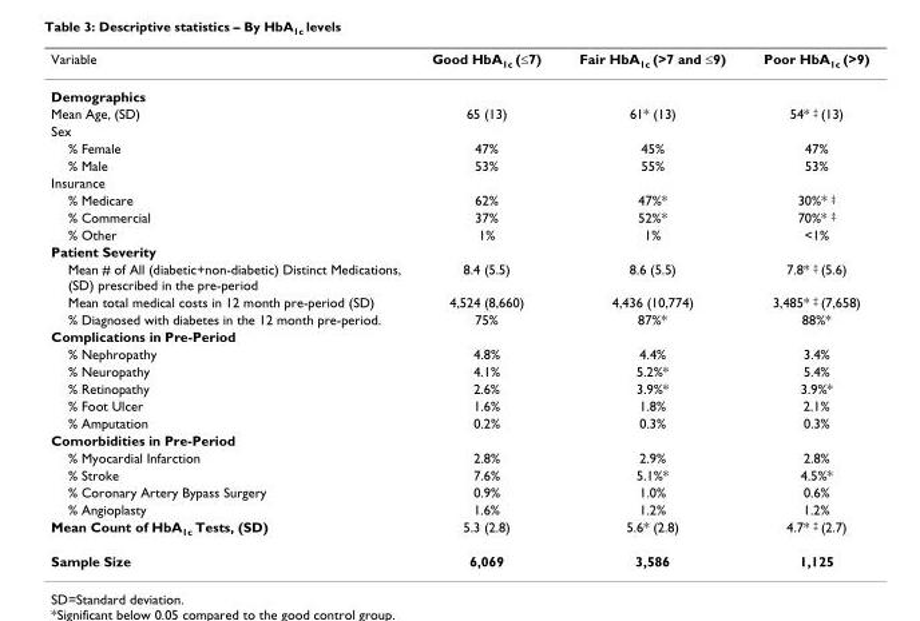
<table><thead><tr><td>Variable</td><td>Good HbA<sub>1c</sub> (≤7)</td><td>Fair HbA<sub>1c</sub> (&gt;7 and ≤9)</td><td>Poor HbA<sub>1c</sub> (&gt;9)</td></tr></thead><tbody><tr><td colspan="4">Demographics</td></tr><tr><td>Mean Age, (SD)</td><td>65 (13)</td><td>61* (13)</td><td>54* <sup>‡</sup> (13)</td></tr><tr><td colspan="4">Sex</td></tr><tr><td>% Female</td><td>47%</td><td>45%</td><td>47%</td></tr><tr><td>% Male</td><td>53%</td><td>55%</td><td>53%</td></tr><tr><td colspan="4">Insurance</td></tr><tr><td>% Medicare</td><td>62%</td><td>47%*</td><td>30%* <sup>‡</sup></td></tr><tr><td>% Commercial</td><td>37%</td><td>52%*</td><td>70%* <sup>‡</sup></td></tr><tr><td>% Other</td><td>1%</td><td>1%</td><td>&lt;1%</td></tr><tr><td colspan="4">Patient Severity</td></tr><tr><td>Mean # of All (diabetic+non-diabetic) Distinct Medications, (SD) prescribed in the pre-period</td><td>8.4 (5.5)</td><td>8.6 (5.5)</td><td>7.8* <sup>‡</sup> (5.6)</td></tr><tr><td>Mean total medical costs in 12 month pre-period (SD)</td><td>4,524 (8,660)</td><td>4,436 (10,774)</td><td>3,485* <sup>‡</sup> (7,658)</td></tr><tr><td>% Diagnosed with diabetes in the 12 month pre-period.</td><td>75%</td><td>87%*</td><td>88%*</td></tr><tr><td colspan="4">Complications in Pre-Period</td></tr><tr><td>% Nephropathy</td><td>4.8%</td><td>4.4%</td><td>3.4%</td></tr><tr><td>% Neuropathy</td><td>4.1%</td><td>5.2%*</td><td>5.4%</td></tr><tr><td>% Retinopathy</td><td>2.6%</td><td>3.9%*</td><td>3.9%*</td></tr><tr><td>% Foot Ulcer</td><td>1.6%</td><td>1.8%</td><td>2.1%</td></tr><tr><td>% Amputation</td><td>0.2%</td><td>0.3%</td><td>0.3%</td></tr><tr><td colspan="4">Comorbidities in Pre-Period</td></tr><tr><td>% Myocardial Infarction</td><td>2.8%</td><td>2.9%</td><td>2.8%</td></tr><tr><td>% Stroke</td><td>7.6%</td><td>5.1%*</td><td>4.5%*</td></tr><tr><td>% Coronary Artery Bypass Surgery</td><td>0.9%</td><td>1.0%</td><td>0.6%</td></tr><tr><td>% Angioplasty</td><td>1.6%</td><td>1.2%</td><td>1.2%</td></tr><tr><td>Mean Count of HbA<sub>1c</sub> Tests, (SD)</td><td>5.3 (2.8)</td><td>5.6* (2.8)</td><td>4.7* <sup>‡</sup> (2.7)</td></tr><tr><td>Sample Size</td><td>6,069</td><td>3,586</td><td>1,125</td></tr></tbody></table>